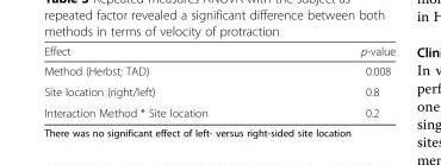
<table><thead><tr><td>Effect</td><td>p-value</td></tr></thead><tbody><tr><td>Method (Herbst; TAD)</td><td>0.008</td></tr><tr><td>Site location (right/left)</td><td>0.8</td></tr><tr><td>Interaction Method * Site location</td><td>0.2</td></tr></tbody></table>